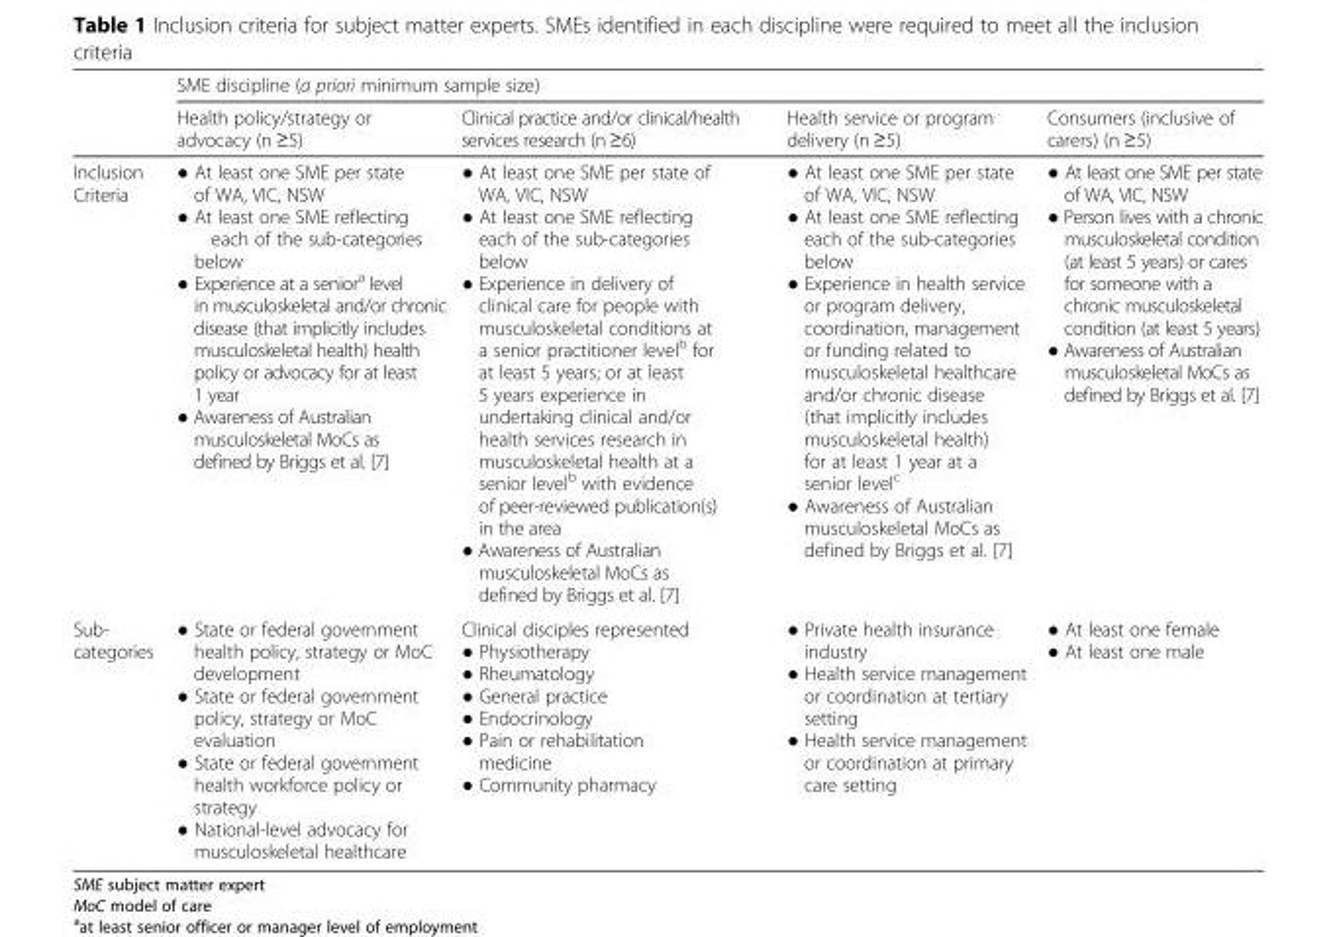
<table><thead><tr><td rowspan="2"></td><td colspan="4">SME discipline (a priori minimum sample size)</td></tr><tr><td>Health policy/strategy or advocacy (n ≥5)</td><td>Clinical practice and/or clinical/health services research (n ≥6)</td><td>Health service or program delivery (n ≥5)</td><td>Consumers (inclusive of carers) (n ≥5)</td></tr></thead><tbody><tr><td>Inclusion Criteria</td><td>● At least one SME per state of WA, VIC, NSW ● At least one SME reflecting each of the sub-categories below ● Experience at a senior<sup>a</sup> level in musculoskeletal and/or chronic disease (that implicitly includes musculoskeletal health) health policy or advocacy for at least 1 year ● Awareness of Australian musculoskeletal MoCs as defined by Briggs et al. [7]</td><td>● At least one SME per state of WA, VIC, NSW ● At least one SME reflecting each of the sub-categories below ● Experience in delivery of clinical care for people with musculoskeletal conditions at a senior practitioner level<sup>b</sup> for at least 5 years; or at least 5 years experience in undertaking clinical and/or health services research in musculoskeletal health at a senior level<sup>b</sup> with evidence of peer-reviewed publication(s) in the area ● Awareness of Australian musculoskeletal MoCs as defined by Briggs et al. [7]</td><td>● At least one SME per state of WA, VIC, NSW ● At least one SME reflecting each of the sub-categories below ● Experience in health service or program delivery, coordination, management or funding related to musculoskeletal healthcare and/or chronic disease (that implicitly includes musculoskeletal health) for at least 1 year at a senior level<sup>c</sup> ● Awareness of Australian musculoskeletal MoCs as defined by Briggs et al. [7]</td><td>● At least one SME per state of WA, VIC, NSW ● Person lives with a chronic musculoskeletal condition (at least 5 years) or cares for someone with a chronic musculoskeletal condition (at least 5 years) ● Awareness of Australian musculoskeletal MoCs as defined by Briggs et al. [7]</td></tr><tr><td>Sub- categories</td><td>● State or federal government health policy, strategy or MoC development ● State or federal government policy, strategy or MoC evaluation ● State or federal government health workforce policy or strategy ● National-level advocacy for musculoskeletal healthcare</td><td>Clinical disciples represented ● Physiotherapy ● Rheumatology ● General practice ● Endocrinology ● Pain or rehabilitation medicine ● Community pharmacy</td><td>● Private health insurance industry ● Health service management or coordination at tertiary setting ● Health service management or coordination at primary care setting</td><td>● At least one female ● At least one male</td></tr></tbody></table>